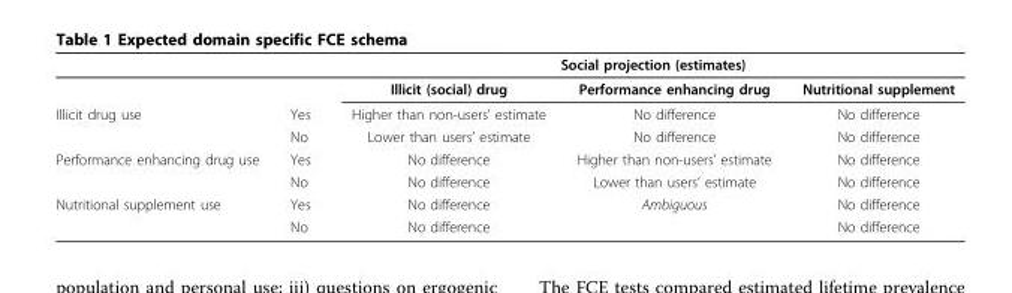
<table><thead><tr><td rowspan="2"></td><td rowspan="2"></td><td colspan="3">Social projection (estimates)</td></tr><tr><td>Illicit (social) drug</td><td>Performance enhancing drug</td><td>Nutritional supplement</td></tr></thead><tbody><tr><td rowspan="2">Illicit drug use</td><td>Yes</td><td>Higher than non-users’ estimate</td><td>No difference</td><td>No difference</td></tr><tr><td>No</td><td>Lower than users’ estimate</td><td>No difference</td><td>No difference</td></tr><tr><td rowspan="2">Performance enhancing drug use</td><td>Yes</td><td>No difference</td><td>Higher than non-users’ estimate</td><td>No difference</td></tr><tr><td>No</td><td>No difference</td><td>Lower than users’ estimate</td><td>No difference</td></tr><tr><td rowspan="2">Nutritional supplement use</td><td>Yes</td><td>No difference</td><td>Ambiguous</td><td>No difference</td></tr><tr><td>No</td><td>No difference</td><td></td><td>No difference</td></tr></tbody></table>